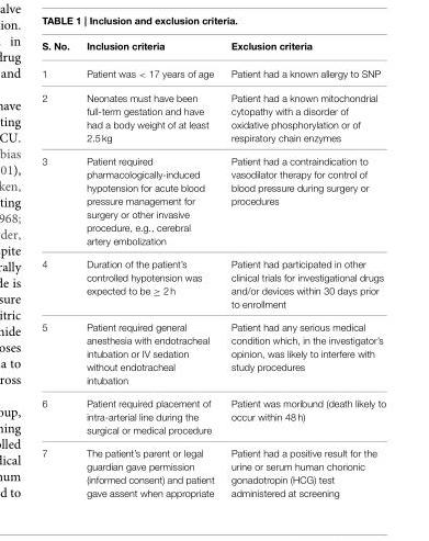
<table><thead><tr><td>S. No.</td><td>Inclusion criteria</td><td>Exclusion criteria</td></tr></thead><tbody><tr><td>1</td><td>Patient was &lt; 17 years of age</td><td>Patient had a known allergy to SNP</td></tr><tr><td>2</td><td>Neonates must have been full-term gestation and have had a body weight of at least 2.5 kg</td><td>Patient had a known mitochondrial cytopathy with a disorder of oxidative phosphorylation or of respiratory chain enzymes</td></tr><tr><td>3</td><td>Patient required pharmacologically-induced hypotension for acute blood pressure management for surgery or other invasive procedure, e.g., cerebral artery embolization</td><td>Patient had a contraindication to vasodilator therapy for control of blood pressure during surgery or procedures</td></tr><tr><td>4</td><td>Duration of the patient’s controlled hypotension was expected to be ≥ 2 h</td><td>Patient had participated in other clinical trials for investigational drugs and/or devices within 30 days prior to enrollment</td></tr><tr><td>5</td><td>Patient required general anesthesia with endotracheal intubation or IV sedation without endotracheal intubation</td><td>Patient had any serious medical condition which, in the investigator’s opinion, was likely to interfere with study procedures</td></tr><tr><td>6</td><td>Patient required placement of intra-arterial line during the surgical or medical procedure</td><td>Patient was moribund (death likely to occur within 48 h)</td></tr><tr><td>7</td><td>The patient’s parent or legal guardian gave permission (informed consent) and patient gave assent when appropriate</td><td>Patient had a positive result for the urine or serum human chorionic gonadotropin (HCG) test administered at screening</td></tr></tbody></table>